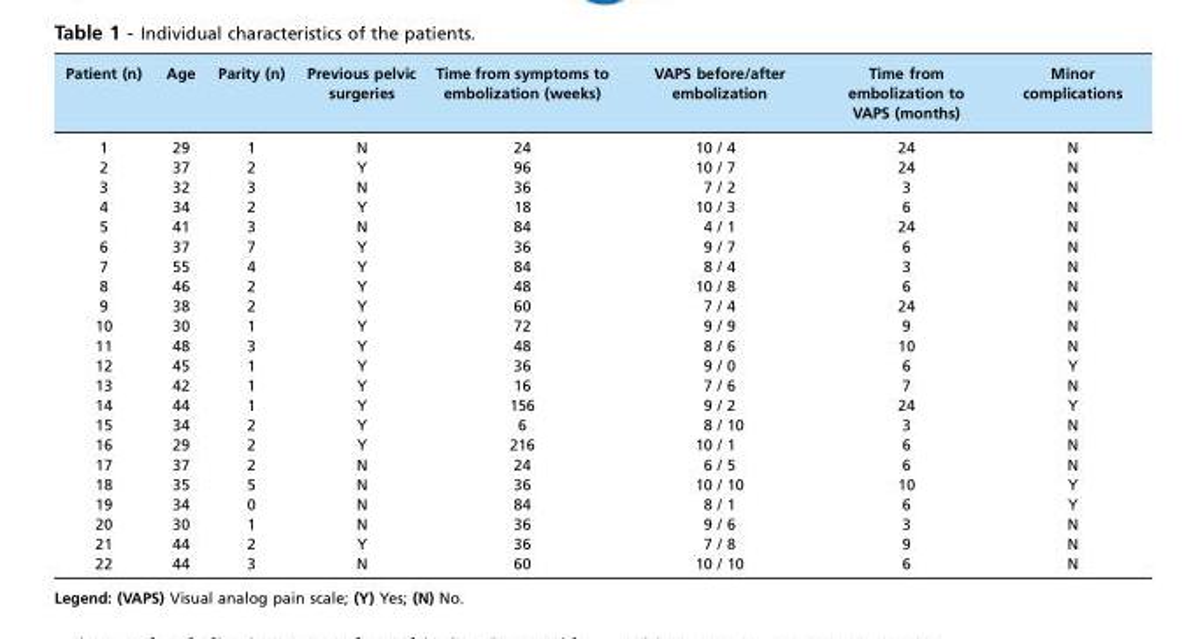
<table><thead><tr><td>Patient (n)</td><td>Age</td><td>Parity (n)</td><td>Previous pelvic surgeries</td><td>Time from symptoms to embolization (weeks)</td><td>VAPS before/after embolization</td><td>Time from embolization to VAPS (months)</td><td>Minor complications</td></tr></thead><tbody><tr><td>1</td><td>29</td><td>1</td><td>N</td><td>24</td><td>10 / 4</td><td>24</td><td>N</td></tr><tr><td>2</td><td>37</td><td>2</td><td>Y</td><td>96</td><td>10 / 7</td><td>24</td><td>N</td></tr><tr><td>3</td><td>32</td><td>3</td><td>N</td><td>36</td><td>7 / 2</td><td>3</td><td>N</td></tr><tr><td>4</td><td>34</td><td>2</td><td>Y</td><td>18</td><td>10 / 3</td><td>6</td><td>N</td></tr><tr><td>5</td><td>41</td><td>3</td><td>N</td><td>84</td><td>4 / 1</td><td>24</td><td>N</td></tr><tr><td>6</td><td>37</td><td>7</td><td>Y</td><td>36</td><td>9 / 7</td><td>6</td><td>N</td></tr><tr><td>7</td><td>55</td><td>4</td><td>Y</td><td>84</td><td>8 / 4</td><td>3</td><td>N</td></tr><tr><td>8</td><td>46</td><td>2</td><td>Y</td><td>48</td><td>10 / 8</td><td>6</td><td>N</td></tr><tr><td>9</td><td>38</td><td>2</td><td>Y</td><td>60</td><td>7 / 4</td><td>24</td><td>N</td></tr><tr><td>10</td><td>30</td><td>1</td><td>Y</td><td>72</td><td>9 / 9</td><td>9</td><td>N</td></tr><tr><td>11</td><td>48</td><td>3</td><td>Y</td><td>48</td><td>8 / 6</td><td>10</td><td>N</td></tr><tr><td>12</td><td>45</td><td>1</td><td>Y</td><td>36</td><td>9 / 0</td><td>6</td><td>Y</td></tr><tr><td>13</td><td>42</td><td>1</td><td>Y</td><td>16</td><td>7 / 6</td><td>7</td><td>N</td></tr><tr><td>14</td><td>44</td><td>1</td><td>Y</td><td>156</td><td>9 / 2</td><td>24</td><td>Y</td></tr><tr><td>15</td><td>34</td><td>2</td><td>Y</td><td>6</td><td>8 / 10</td><td>3</td><td>N</td></tr><tr><td>16</td><td>29</td><td>2</td><td>Y</td><td>216</td><td>10 / 1</td><td>6</td><td>N</td></tr><tr><td>17</td><td>37</td><td>2</td><td>N</td><td>24</td><td>6 / 5</td><td>6</td><td>N</td></tr><tr><td>18</td><td>35</td><td>5</td><td>N</td><td>36</td><td>10 / 10</td><td>10</td><td>Y</td></tr><tr><td>19</td><td>34</td><td>0</td><td>N</td><td>84</td><td>8 / 1</td><td>6</td><td>Y</td></tr><tr><td>20</td><td>30</td><td>1</td><td>N</td><td>36</td><td>9 / 6</td><td>3</td><td>N</td></tr><tr><td>21</td><td>44</td><td>2</td><td>Y</td><td>36</td><td>7 / 8</td><td>9</td><td>N</td></tr><tr><td>22</td><td>44</td><td>3</td><td>N</td><td>60</td><td>10 / 10</td><td>6</td><td>N</td></tr></tbody></table>